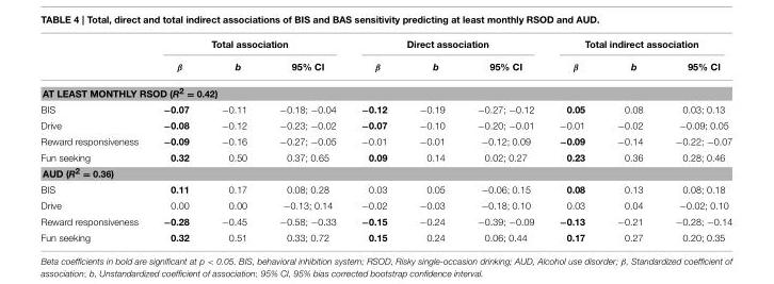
<table><thead><tr><td rowspan="2"></td><td colspan="3">Total association</td><td colspan="3">Direct association</td><td colspan="3">Total indirect association</td></tr><tr><td>β</td><td>b</td><td>95% CI</td><td>β</td><td>b</td><td>95% CI</td><td>β</td><td>b</td><td>95% CI</td></tr></thead><tbody><tr><td colspan="10">AT LEAST MONTHLY RSOD (R<sup>2</sup> = 0.42)</td></tr><tr><td>BIS</td><td>−0.07</td><td>−0.11</td><td>−0.18; −0.04</td><td>−0.12</td><td>−0.19</td><td>−0.27; −0.12</td><td>0.05</td><td>0.08</td><td>0.03; 0.13</td></tr><tr><td>Drive</td><td>−0.08</td><td>−0.12</td><td>−0.23; −0.02</td><td>−0.07</td><td>−0.10</td><td>−0.20; −0.01</td><td>−0.01</td><td>−0.02</td><td>−0.09; 0.05</td></tr><tr><td>Reward responsiveness</td><td>−0.09</td><td>−0.16</td><td>−0.27; −0.05</td><td>−0.01</td><td>−0.01</td><td>−0.12; 0.09</td><td>−0.09</td><td>−0.14</td><td>−0.22; −0.07</td></tr><tr><td>Fun seeking</td><td>0.32</td><td>0.50</td><td>0.37; 0.65</td><td>0.09</td><td>0.14</td><td>0.02; 0.27</td><td>0.23</td><td>0.36</td><td>0.28; 0.46</td></tr><tr><td colspan="10">AUD (R<sup>2</sup> = 0.36)</td></tr><tr><td>BIS</td><td>0.11</td><td>0.17</td><td>0.08; 0.28</td><td>0.03</td><td>0.05</td><td>−0.06; 0.15</td><td>0.08</td><td>0.13</td><td>0.08; 0.18</td></tr><tr><td>Drive</td><td>0.00</td><td>0.00</td><td>−0.13; 0.14</td><td>−0.02</td><td>−0.03</td><td>−0.18; 0.10</td><td>0.03</td><td>0.04</td><td>−0.02; 0.10</td></tr><tr><td>Reward responsiveness</td><td>−0.28</td><td>−0.45</td><td>−0.58; −0.33</td><td>−0.15</td><td>−0.24</td><td>−0.39; −0.09</td><td>−0.13</td><td>−0.21</td><td>−0.28; −0.14</td></tr><tr><td>Fun seeking</td><td>0.32</td><td>0.51</td><td>0.33; 0.72</td><td>0.15</td><td>0.24</td><td>0.06; 0.44</td><td>0.17</td><td>0.27</td><td>0.20; 0.35</td></tr></tbody></table>